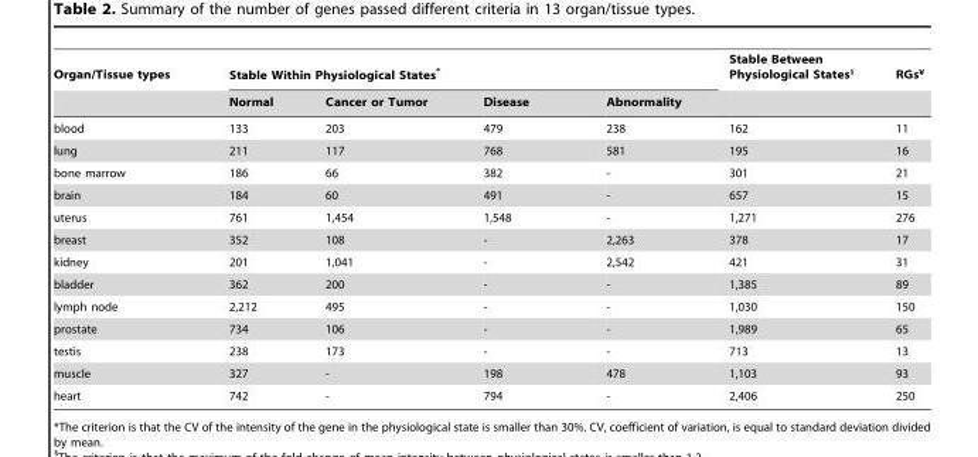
<table><thead><tr><td rowspan="2">Organ/Tissue types</td><td colspan="4">Stable Within Physiological States*</td><td rowspan="2">Stable Between Physiological States§</td><td rowspan="2">RGs¥</td></tr><tr><td>Normal</td><td>Cancer or Tumor</td><td>Disease</td><td>Abnormality</td></tr></thead><tbody><tr><td>blood</td><td>133</td><td>203</td><td>479</td><td>238</td><td>162</td><td>11</td></tr><tr><td>lung</td><td>211</td><td>117</td><td>768</td><td>581</td><td>195</td><td>16</td></tr><tr><td>bone marrow</td><td>186</td><td>66</td><td>382</td><td>-</td><td>301</td><td>21</td></tr><tr><td>brain</td><td>184</td><td>60</td><td>491</td><td>-</td><td>657</td><td>15</td></tr><tr><td>uterus</td><td>761</td><td>1,454</td><td>1,548</td><td>-</td><td>1,271</td><td>276</td></tr><tr><td>breast</td><td>352</td><td>108</td><td>-</td><td>2,263</td><td>378</td><td>17</td></tr><tr><td>kidney</td><td>201</td><td>1,041</td><td>-</td><td>2,542</td><td>421</td><td>31</td></tr><tr><td>bladder</td><td>362</td><td>200</td><td>-</td><td>-</td><td>1,385</td><td>89</td></tr><tr><td>lymph node</td><td>2,212</td><td>495</td><td>-</td><td>-</td><td>1,030</td><td>150</td></tr><tr><td>prostate</td><td>734</td><td>106</td><td>-</td><td>-</td><td>1,989</td><td>65</td></tr><tr><td>testis</td><td>238</td><td>173</td><td>-</td><td>-</td><td>713</td><td>13</td></tr><tr><td>muscle</td><td>327</td><td>-</td><td>198</td><td>478</td><td>1,103</td><td>93</td></tr><tr><td>heart</td><td>742</td><td>-</td><td>794</td><td>-</td><td>2,406</td><td>250</td></tr></tbody></table>